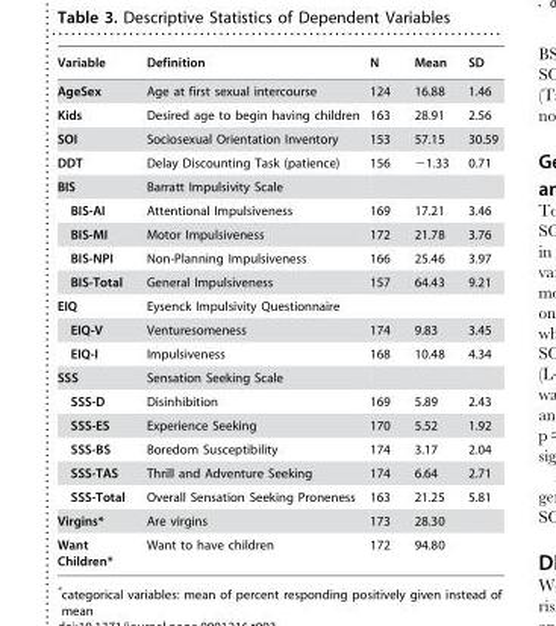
<table><thead><tr><td>Variable</td><td>Definition</td><td>N</td><td>Mean</td><td>SD</td></tr></thead><tbody><tr><td>AgeSex</td><td>Age at first sexual intercourse</td><td>124</td><td>16.88</td><td>1.46</td></tr><tr><td>Kids</td><td>Desired age to begin having children</td><td>163</td><td>28.91</td><td>2.56</td></tr><tr><td>SOI</td><td>Sociosexual Orientation Inventory</td><td>153</td><td>57.15</td><td>30.59</td></tr><tr><td>DDT</td><td>Delay Discounting Task (patience)</td><td>156</td><td>−1.33</td><td>0.71</td></tr><tr><td>BIS</td><td>Barratt Impulsivity Scale</td><td></td><td></td><td></td></tr><tr><td>BIS-AI</td><td>Attentional Impulsiveness</td><td>169</td><td>17.21</td><td>3.46</td></tr><tr><td>BIS-MI</td><td>Motor Impulsiveness</td><td>172</td><td>21.78</td><td>3.76</td></tr><tr><td>BIS-NPI</td><td>Non-Planning Impulsiveness</td><td>166</td><td>25.46</td><td>3.97</td></tr><tr><td>BIS-Total</td><td>General Impulsiveness</td><td>157</td><td>64.43</td><td>9.21</td></tr><tr><td>EIQ</td><td>Eysenck Impulsivity Questionnaire</td><td></td><td></td><td></td></tr><tr><td>EIQ-V</td><td>Venturesomeness</td><td>174</td><td>9.83</td><td>3.45</td></tr><tr><td>EIQ-I</td><td>Impulsiveness</td><td>168</td><td>10.48</td><td>4.34</td></tr><tr><td>SSS</td><td>Sensation Seeking Scale</td><td></td><td></td><td></td></tr><tr><td>SSS-D</td><td>Disinhibition</td><td>169</td><td>5.89</td><td>2.43</td></tr><tr><td>SSS-ES</td><td>Experience Seeking</td><td>170</td><td>5.52</td><td>1.92</td></tr><tr><td>SSS-BS</td><td>Boredom Susceptibility</td><td>174</td><td>3.17</td><td>2.04</td></tr><tr><td>SSS-TAS</td><td>Thrill and Adventure Seeking</td><td>174</td><td>6.64</td><td>2.71</td></tr><tr><td>SSS-Total</td><td>Overall Sensation Seeking Proneness</td><td>163</td><td>21.25</td><td>5.81</td></tr><tr><td>Virgins*</td><td>Are virgins</td><td>173</td><td>28.30</td><td></td></tr><tr><td>Want Children*</td><td>Want to have children</td><td>172</td><td>94.80</td><td></td></tr></tbody></table>